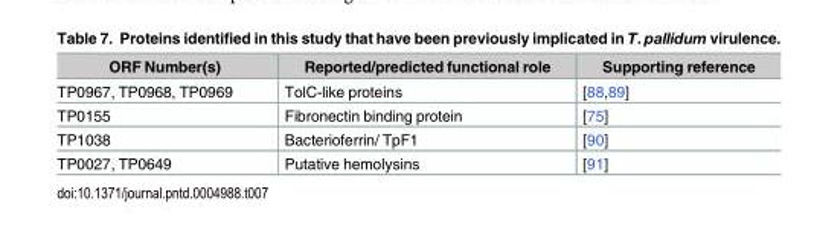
<table><thead><tr><td>ORF Number(s)</td><td>Reported/predicted functional role</td><td>Supporting reference</td></tr></thead><tbody><tr><td>TP0967, TP0968, TP0969</td><td>TolC-like proteins</td><td>[88,89]</td></tr><tr><td>TP0155</td><td>Fibronectin binding protein</td><td>[75]</td></tr><tr><td>TP1038</td><td>Bacterioferrin/ TpF1</td><td>[90]</td></tr><tr><td>TP0027, TP0649</td><td>Putative hemolysins</td><td>[91]</td></tr></tbody></table>